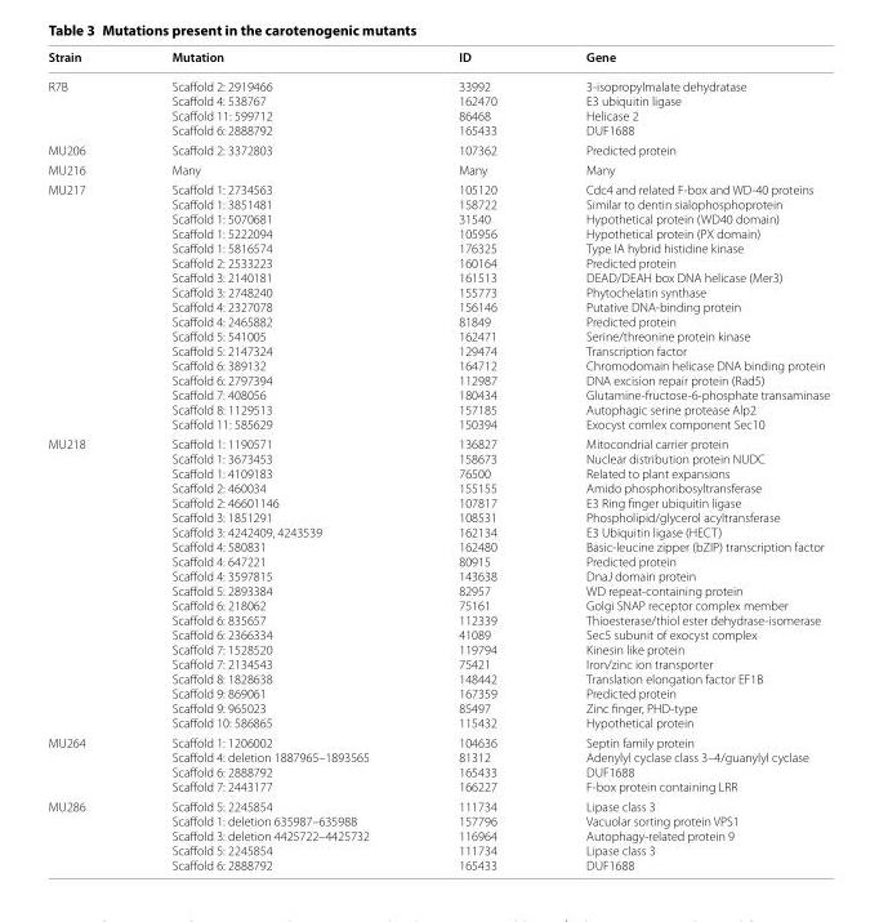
<table><thead><tr><td>Strain</td><td>Mutation</td><td>ID</td><td>Gene</td></tr></thead><tbody><tr><td>R7B</td><td>Scaffold 2: 2919466 Scaffold 4: 538767 Scaffold 11: 599712 Scaffold 6: 2888792</td><td>33992 162470 86468 165433</td><td>3‑isopropylmalate dehydratase E3 ubiquitin ligase Helicase 2 DUF1688</td></tr><tr><td>MU206</td><td>Scaffold 2: 3372803</td><td>107362</td><td>Predicted protein</td></tr><tr><td>MU216</td><td>Many</td><td>Many</td><td>Many</td></tr><tr><td>MU217</td><td>Scaffold 1: 2734563 Scaffold 1: 3851481 Scaffold 1: 5070681 Scaffold 1: 5222094 Scaffold 1: 5816574 Scaffold 2: 2533223 Scaffold 3: 2140181 Scaffold 3: 2748240 Scaffold 4: 2327078 Scaffold 4: 2465882 Scaffold 5: 541005 Scaffold 5: 2147324 Scaffold 6: 389132 Scaffold 6: 2797394 Scaffold 7: 408056 Scaffold 8: 1129513 Scaffold 11: 585629</td><td>105120 158722 31540 105956 176325 160164 161513 155773 156146 81849 162471 129474 164712 112987 180434 157185 150394</td><td>Cdc4 and related F‑box and WD‑40 proteins Similar to dentin sialophosphoprotein Hypothetical protein (WD40 domain) Hypothetical protein (PX domain) Type IA hybrid histidine kinase Predicted protein DEAD/DEAH box DNA helicase (Mer3) Phytochelatin synthase Putative DNA‑binding protein Predicted protein Serine/threonine protein kinase Transcription factor Chromodomain helicase DNA binding protein DNA excision repair protein (Rad5) Glutamine‑fructose‑6‑phosphate transaminase Autophagic serine protease Alp2 Exocyst comlex component Sec10</td></tr><tr><td>MU218</td><td>Scaffold 1: 1190571 Scaffold 1: 3673453 Scaffold 1: 4109183 Scaffold 2: 460034 Scaffold 2: 46601146 Scaffold 3: 1851291 Scaffold 3: 4242409, 4243539 Scaffold 4: 580831 Scaffold 4: 647221 Scaffold 4: 3597815 Scaffold 5: 2893384 Scaffold 6: 218062 Scaffold 6: 835657 Scaffold 6: 2366334 Scaffold 7: 1528520 Scaffold 7: 2134543 Scaffold 8: 1828638 Scaffold 9: 869061 Scaffold 9: 965023 Scaffold 10: 586865</td><td>136827 158673 76500 155155 107817 108531 162134 162480 80915 143638 82957 75161 112339 41089 119794 75421 148442 167359 85497 115432</td><td>Mitocondrial carrier protein Nuclear distribution protein NUDC Related to plant expansions Amido phosphoribosyltransferase E3 Ring finger ubiquitin ligase Phospholipid/glycerol acyltransferase E3 Ubiquitin ligase (HECT) Basic‑leucine zipper (bZIP) transcription factor Predicted protein DnaJ domain protein WD repeat‑containing protein Golgi SNAP receptor complex member Thioesterase/thiol ester dehydrase‑isomerase Sec5 subunit of exocyst complex Kinesin like protein Iron/zinc ion transporter Translation elongation factor EF1B Predicted protein Zinc finger, PHD‑type Hypothetical protein</td></tr><tr><td>MU264</td><td>Scaffold 1: 1206002 Scaffold 4: deletion 1887965–1893565 Scaffold 6: 2888792 Scaffold 7: 2443177</td><td>104636 81312 165433 166227</td><td>Septin family protein Adenylyl cyclase class 3–4/guanylyl cyclase DUF1688 F‑box protein containing LRR</td></tr><tr><td>MU286</td><td>Scaffold 5: 2245854 Scaffold 1: deletion 635987–635988 Scaffold 3: deletion 4425722–4425732 Scaffold 5: 2245854 Scaffold 6: 2888792</td><td>111734 157796 116964 111734 165433</td><td>Lipase class 3 Vacuolar sorting protein VPS1 Autophagy‑related protein 9 Lipase class 3 DUF1688</td></tr></tbody></table>